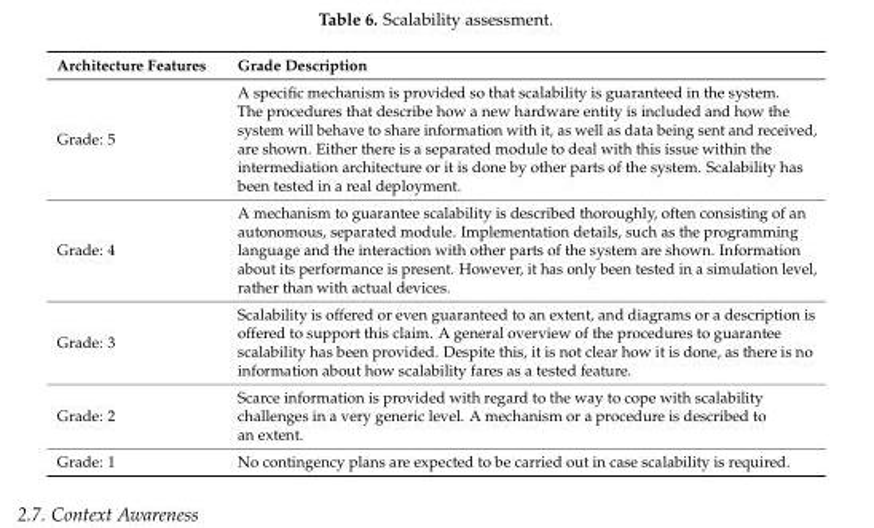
<table><thead><tr><td>Architecture Features</td><td>Grade Description</td></tr></thead><tbody><tr><td>Grade: 5</td><td>A specific mechanism is provided so that scalability is guaranteed in the system. The procedures that describe how a new hardware entity is included and how the system will behave to share information with it, as well as data being sent and received, are shown. Either there is a separated module to deal with this issue within the intermediation architecture or it is done by other parts of the system. Scalability has been tested in a real deployment.</td></tr><tr><td>Grade: 4</td><td>A mechanism to guarantee scalability is described thoroughly, often consisting of an autonomous, separated module. Implementation details, such as the programming language and the interaction with other parts of the system are shown. Information about its performance is present. However, it has only been tested in a simulation level, rather than with actual devices.</td></tr><tr><td>Grade: 3</td><td>Scalability is offered or even guaranteed to an extent, and diagrams or a description is offered to support this claim. A general overview of the procedures to guarantee scalability has been provided. Despite this, it is not clear how it is done, as there is no information about how scalability fares as a tested feature.</td></tr><tr><td>Grade: 2</td><td>Scarce information is provided with regard to the way to cope with scalability challenges in a very generic level. A mechanism or a procedure is described to an extent.</td></tr><tr><td>Grade: 1</td><td>No contingency plans are expected to be carried out in case scalability is required.</td></tr></tbody></table>